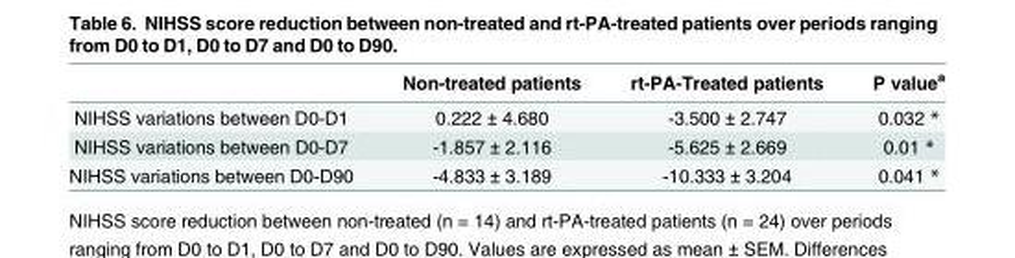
<table><thead><tr><td></td><td>Non-treated patients</td><td>rt-PA-Treated patients</td><td>P value<sup>a</sup></td></tr></thead><tbody><tr><td>NIHSS variations between D0-D1</td><td>0.222 ± 4.680</td><td>-3.500 ± 2.747</td><td>0.032 *</td></tr><tr><td>NIHSS variations between D0-D7</td><td>-1.857 ± 2.116</td><td>-5.625 ± 2.669</td><td>0.01 *</td></tr><tr><td>NIHSS variations between D0-D90</td><td>-4.833 ± 3.189</td><td>-10.333 ± 3.204</td><td>0.041 *</td></tr></tbody></table>